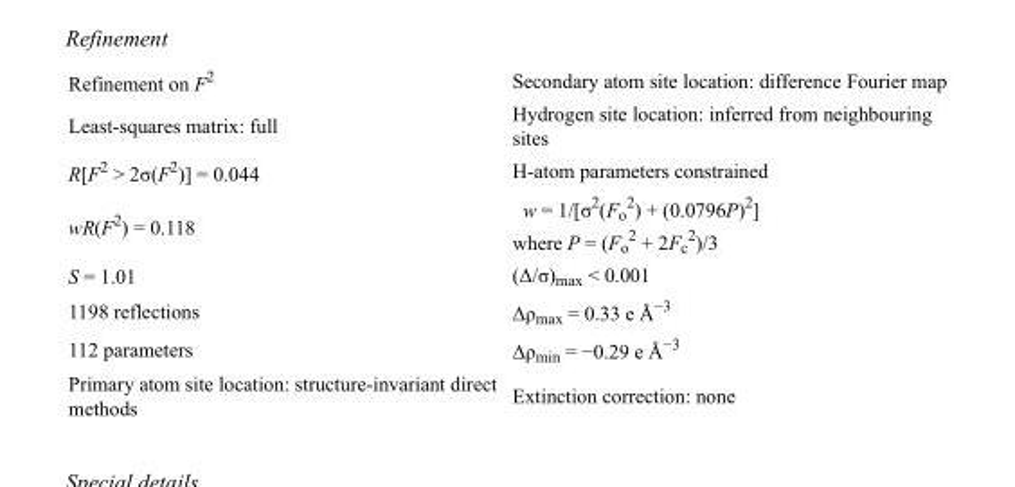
<table><tbody><tr><td>Refinement on F<sup>2</sup></td><td>Secondary atom site location: difference Fourier map</td></tr><tr><td>Least-squares matrix: full</td><td>Hydrogen site location: inferred from neighbouring sites</td></tr><tr><td>R[F<sup>2</sup> &gt; 2σ(F<sup>2</sup>)] = 0.044</td><td>H-atom parameters constrained</td></tr><tr><td>wR(F<sup>2</sup>) = 0.118</td><td>w = 1/[σ<sup>2</sup>(F<sub>o</sub> <sup>2</sup>) + (0.0796P)<sup>2</sup>] where P = (F<sub>o</sub> <sup>2</sup> + 2F<sub>c</sub> <sup>2</sup>)/3</td></tr><tr><td>S = 1.01</td><td>(Δ/σ)<sub>max</sub> &lt; 0.001</td></tr><tr><td>1198 reflections</td><td>Δρ<sub>max</sub> = 0.33 e Å<sup>−3</sup></td></tr><tr><td>112 parameters</td><td>Δρ<sub>min</sub> = −0.29 e Å<sup>−3</sup></td></tr><tr><td>Primary atom site location: structure-invariant direct methods</td><td>Extinction correction: none</td></tr></tbody></table>